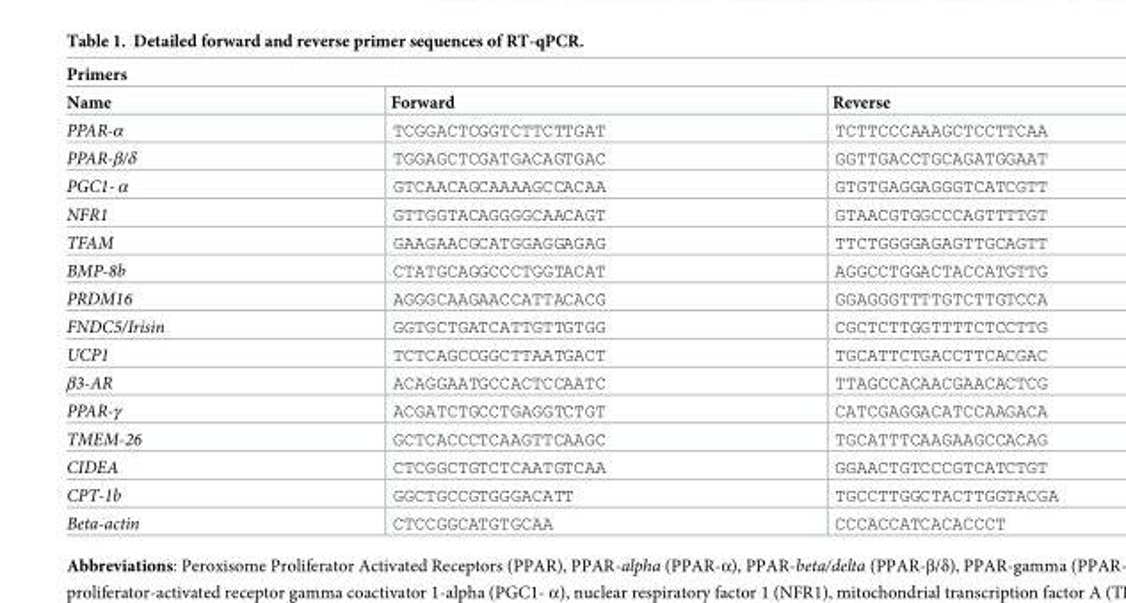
<table><thead><tr><td colspan="3">Primers</td></tr><tr><td>Name</td><td>Forward</td><td>Reverse</td></tr></thead><tbody><tr><td>PPAR-α</td><td>TCGGACTCGGTCTTCTTGAT</td><td>TCTTCCCAAAGCTCCTTCAA</td></tr><tr><td>PPAR-β/δ</td><td>TGGAGCTCGATGACAGTGAC</td><td>GGTTGACCTGCAGATGGAAT</td></tr><tr><td>PGC1- α</td><td>GTCAACAGCAAAAGCCACAA</td><td>GTGTGAGGAGGGTCATCGTT</td></tr><tr><td>NFR1</td><td>GTTGGTACAGGGGCAACAGT</td><td>GTAACGTGGCCCAGTTTTGT</td></tr><tr><td>TFAM</td><td>GAAGAACGCATGGAGGAGAG</td><td>TTCTGGGGAGAGTTGCAGTT</td></tr><tr><td>BMP-8b</td><td>CTATGCAGGCCCTGGTACAT</td><td>AGGCCTGGACTACCATGTTG</td></tr><tr><td>PRDM16</td><td>AGGGCAAGAACCATTACACG</td><td>GGAGGGTTTTGTCTTGTCCA</td></tr><tr><td>FNDC5/Irisin</td><td>GGTGCTGATCATTGTTGTGG</td><td>CGCTCTTGGTTTTCTCCTTG</td></tr><tr><td>UCP1</td><td>TCTCAGCCGGCTTAATGACT</td><td>TGCATTCTGACCTTCACGAC</td></tr><tr><td>β3-AR</td><td>ACAGGAATGCCACTCCAATC</td><td>TTAGCCACAACGAACACTCG</td></tr><tr><td>PPAR-γ</td><td>ACGATCTGCCTGAGGTCTGT</td><td>CATCGAGGACATCCAAGACA</td></tr><tr><td>TMEM-26</td><td>GCTCACCCTCAAGTTCAAGC</td><td>TGCATTTCAAGAAGCCACAG</td></tr><tr><td>CIDEA</td><td>CTCGGCTGTCTCAATGTCAA</td><td>GGAACTGTCCCGTCATCTGT</td></tr><tr><td>CPT-1b</td><td>GGCTGCCGTGGGACATT</td><td>TGCCTTGGCTACTTGGTACGA</td></tr><tr><td>Beta-actin</td><td>CTCCGGCATGTGCAA</td><td>CCCACCATCACACCCT</td></tr></tbody></table>